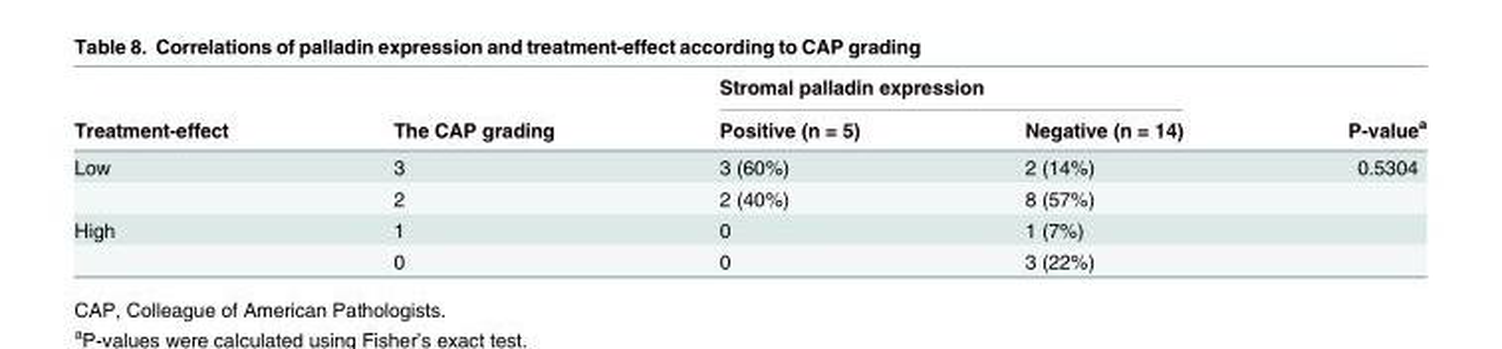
<table><thead><tr><td rowspan="2">Treatment-effect</td><td rowspan="2">The CAP grading</td><td colspan="2">Stromal palladin expression</td><td rowspan="2">P-value<sup>a</sup></td></tr><tr><td>Positive (n = 5)</td><td>Negative (n = 14)</td></tr></thead><tbody><tr><td rowspan="2">Low</td><td>3</td><td>3 (60%)</td><td>2 (14%)</td><td>0.5304</td></tr><tr><td>2</td><td>2 (40%)</td><td>8 (57%)</td><td></td></tr><tr><td rowspan="2">High</td><td>1</td><td>0</td><td>1 (7%)</td><td></td></tr><tr><td>0</td><td>0</td><td>3 (22%)</td><td></td></tr></tbody></table>